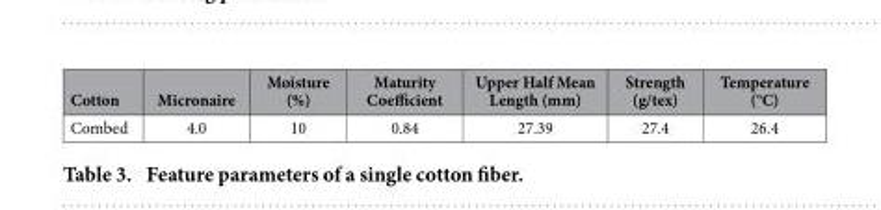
<table><thead><tr><td>Cotton</td><td>Micronaire</td><td>Moisture (%)</td><td>Maturity Coefficient</td><td>Upper Half Mean Length (mm)</td><td>Strength (g/tex)</td><td>Temperature (°C)</td></tr></thead><tbody><tr><td>Combed</td><td>4.0</td><td>10</td><td>0.84</td><td>27.39</td><td>27.4</td><td>26.4</td></tr></tbody></table>